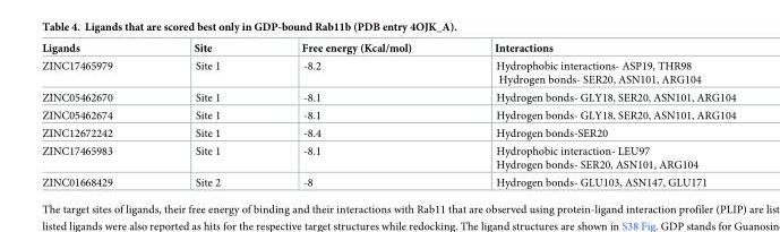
<table><thead><tr><td>Ligands</td><td>Site</td><td>Free energy (Kcal/mol)</td><td>Interactions</td></tr></thead><tbody><tr><td>ZINC17465979</td><td>Site 1</td><td>-8.2</td><td>Hydrophobic interactions- ASP19, THR98 Hydrogen bonds- SER20, ASN101, ARG104</td></tr><tr><td>ZINC05462670</td><td>Site 1</td><td>-8.1</td><td>Hydrogen bonds- GLY18, SER20, ASN101, ARG104</td></tr><tr><td>ZINC05462674</td><td>Site 1</td><td>-8.1</td><td>Hydrogen bonds- GLY18, SER20, ASN101, ARG104</td></tr><tr><td>ZINC12672242</td><td>Site 1</td><td>-8.4</td><td>Hydrogen bonds-SER20</td></tr><tr><td>ZINC17465983</td><td>Site 1</td><td>-8.1</td><td>Hydrophobic interaction- LEU97 Hydrogen bonds- SER20, ASN101, ARG104</td></tr><tr><td>ZINC01668429</td><td>Site 2</td><td>-8</td><td>Hydrogen bonds- GLU103, ASN147, GLU171</td></tr></tbody></table>